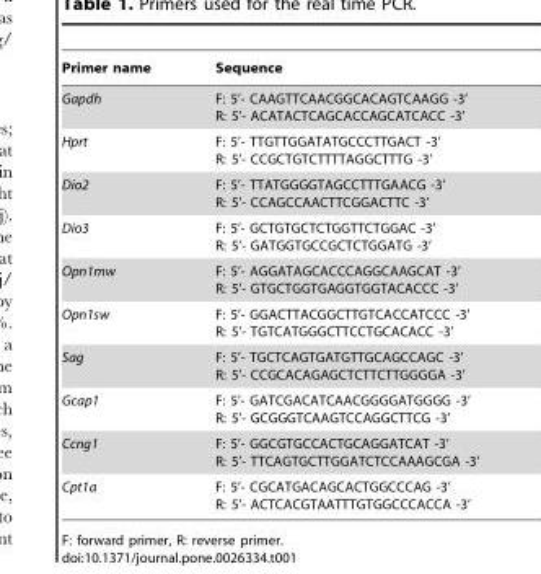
<table><thead><tr><td>Primer name</td><td>Sequence</td></tr></thead><tbody><tr><td>Gapdh</td><td>F: 5’- CAAGTTCAACGGCACAGTCAAGG -3’ R: 5’- ACATACTCAGCACCAGCATCACC -3’</td></tr><tr><td>Hprt</td><td>F: 5’- TTGTTGGATATGCCCTTGACT -3’ R: 5’- CCGCTGTCTTTTAGGCTTTG -3’</td></tr><tr><td>Dio2</td><td>F: 5’- TTATGGGGTAGCCTTTGAACG -3’ R: 5’- CCAGCCAACTTCGGACTTC -3’</td></tr><tr><td>Dio3</td><td>F: 5’- GCTGTGCTCTGGTTCTGGAC -3’ R: 5’- GATGGTGCCGCTCTGGATG -3’</td></tr><tr><td>Opn1mw</td><td>F: 5’- AGGATAGCACCCAGGCAAGCAT -3’ R: 5’- GTGCTGGTGAGGTGGTACACCC -3’</td></tr><tr><td>Opn1sw</td><td>F: 5’- GGACTTACGGCTTGTCACCATCCC -3’ R: 5’- TGTCATGGGCTTCCTGCACACC -3’</td></tr><tr><td>Sag</td><td>F: 5’- TGCTCAGTGATGTTGCAGCCAGC -3’ R: 5’- CCGCACAGAGCTCTTCTTGGGGA -3’</td></tr><tr><td>Gcap1</td><td>F: 5’- GATCGACATCAACGGGGATGGGG -3’ R: 5’- GCGGGTCAAGTCCAGGCTTCG -3’</td></tr><tr><td>Ccng1</td><td>F: 5’- GGCGTGCCACTGCAGGATCAT -3’ R: 5’- TTCAGTGCTTGGATCTCCAAAGCGA -3’</td></tr><tr><td>Cpt1a</td><td>F: 5’- CGCATGACAGCACTGGCCCAG -3’ R: 5’- ACTCACGTAATTTGTGGCCCACCA -3’</td></tr></tbody></table>